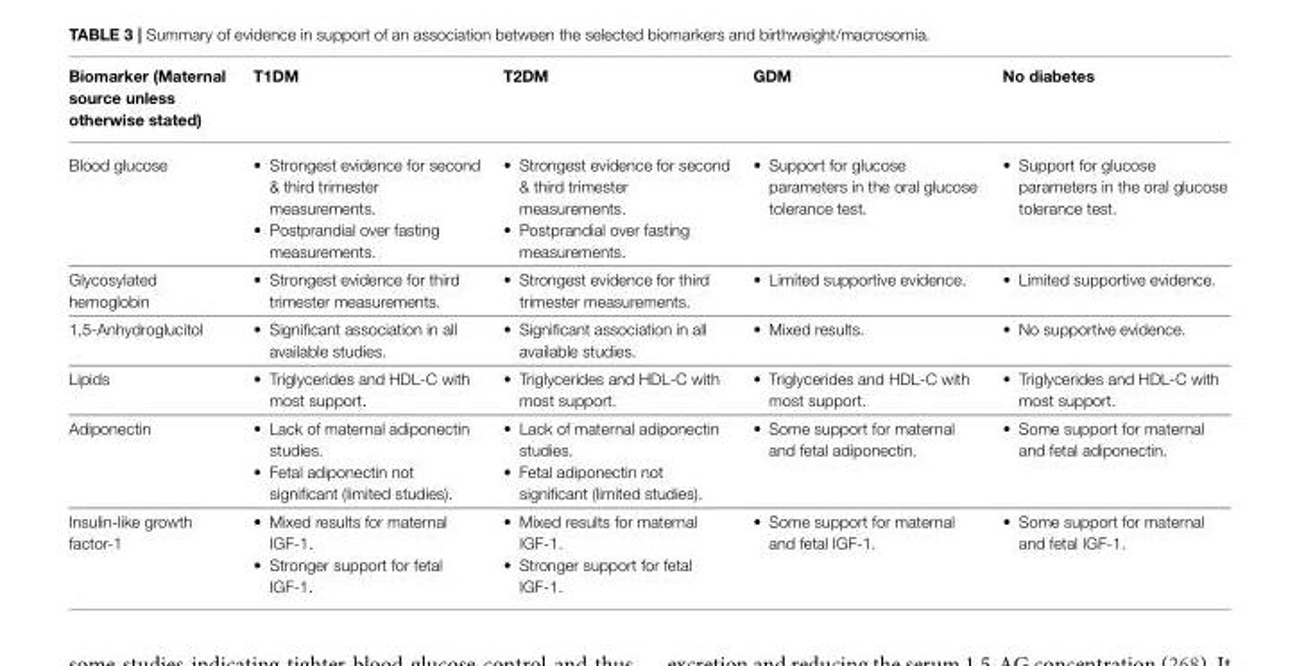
<table><thead><tr><td>Biomarker (Maternal source unless otherwise stated)</td><td>T1DM</td><td>T2DM</td><td>GDM</td><td>No diabetes</td></tr></thead><tbody><tr><td>Blood glucose</td><td>• Strongest evidence for second &amp; third trimester measurements. • Postprandial over fasting measurements.</td><td>• Strongest evidence for second &amp; third trimester measurements. • Postprandial over fasting measurements.</td><td>• Support for glucose parameters in the oral glucose tolerance test.</td><td>• Support for glucose parameters in the oral glucose tolerance test.</td></tr><tr><td>Glycosylated hemoglobin</td><td>• Strongest evidence for third trimester measurements.</td><td>• Strongest evidence for third trimester measurements.</td><td>• Limited supportive evidence.</td><td>• Limited supportive evidence.</td></tr><tr><td>1,5-Anhydroglucitol</td><td>• Significant association in all available studies.</td><td>• Significant association in all available studies.</td><td>• Mixed results.</td><td>• No supportive evidence.</td></tr><tr><td>Lipids</td><td>• Triglycerides and HDL-C with most support.</td><td>• Triglycerides and HDL-C with most support.</td><td>• Triglycerides and HDL-C with most support.</td><td>• Triglycerides and HDL-C with most support.</td></tr><tr><td>Adiponectin</td><td>• Lack of maternal adiponectin studies. • Fetal adiponectin not significant (limited studies).</td><td>• Lack of maternal adiponectin studies. • Fetal adiponectin not significant (limited studies).</td><td>• Some support for maternal and fetal adiponectin.</td><td>• Some support for maternal and fetal adiponectin.</td></tr><tr><td>Insulin-like growth factor-1</td><td>• Mixed results for maternal IGF-1. • Stronger support for fetal IGF-1.</td><td>• Mixed results for maternal IGF-1. • Stronger support for fetal IGF-1.</td><td>• Some support for maternal and fetal IGF-1.</td><td>• Some support for maternal and fetal IGF-1.</td></tr></tbody></table>